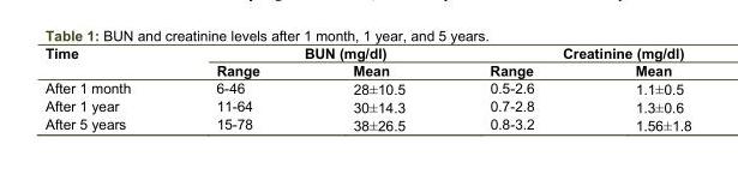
<table><thead><tr><td rowspan="2">Time</td><td colspan="2">BUN (mg/dl)</td><td colspan="2">Creatinine (mg/dl)</td></tr><tr><td>Range</td><td>Mean</td><td>Range</td><td>Mean</td></tr></thead><tbody><tr><td>After 1 month</td><td>6-46</td><td>28±10.5</td><td>0.5-2.6</td><td>1.1±0.5</td></tr><tr><td>After 1 year</td><td>11-64</td><td>30±14.3</td><td>0.7-2.8</td><td>1.3±0.6</td></tr><tr><td>After 5 years</td><td>15-78</td><td>38±26.5</td><td>0.8-3.2</td><td>1.56±1.8</td></tr></tbody></table>